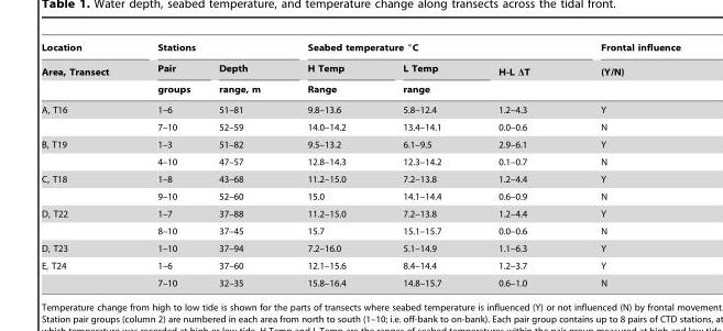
<table><thead><tr><td rowspan="3">Location Area, Transect</td><td colspan="2">Stations</td><td colspan="3">Seabed temperature °C</td><td rowspan="3">Frontal influence (Y/N)</td></tr><tr><td rowspan="2">Pair groups</td><td rowspan="2">Depth range, m</td><td rowspan="2">H Temp Range</td><td rowspan="2">L Temp range</td><td rowspan="2">H-L ΔT</td></tr><tr></tr></thead><tbody><tr><td rowspan="2">A, T16</td><td>1–6</td><td>51–81</td><td>9.8–13.6</td><td>5.8–12.4</td><td>1.2–4.3</td><td>Y</td></tr><tr><td>7–10</td><td>52–59</td><td>14.0–14.2</td><td>13.4–14.1</td><td>0.0–0.6</td><td>N</td></tr><tr><td rowspan="2">B, T19</td><td>1–3</td><td>51–82</td><td>9.5–13.2</td><td>6.1–9.5</td><td>2.9–6.1</td><td>Y</td></tr><tr><td>4–10</td><td>47–57</td><td>12.8–14.3</td><td>12.3–14.2</td><td>0.1–0.7</td><td>N</td></tr><tr><td rowspan="2">C, T18</td><td>1–8</td><td>43–68</td><td>11.2–15.0</td><td>7.2–13.8</td><td>1.2–4.4</td><td>Y</td></tr><tr><td>9–10</td><td>52–60</td><td>15.0</td><td>14.1–14.4</td><td>0.6–0.9</td><td>N</td></tr><tr><td rowspan="2">D, T22</td><td>1–7</td><td>37–88</td><td>11.2–15.0</td><td>7.2–13.8</td><td>1.2–4.4</td><td>Y</td></tr><tr><td>8–10</td><td>37–45</td><td>15.7</td><td>15.1–15.7</td><td>0.0–0.6</td><td>N</td></tr><tr><td>D, T23</td><td>1–10</td><td>37–94</td><td>7.2–16.0</td><td>5.1–14.9</td><td>1.1–6.3</td><td>Y</td></tr><tr><td rowspan="2">E, T24</td><td>1–6</td><td>37–60</td><td>12.1–15.6</td><td>8.4–14.4</td><td>1.2–3.7</td><td>Y</td></tr><tr><td>7–10</td><td>32–35</td><td>15.8–16.4</td><td>14.8–15.7</td><td>0.6–1.0</td><td>N</td></tr></tbody></table>